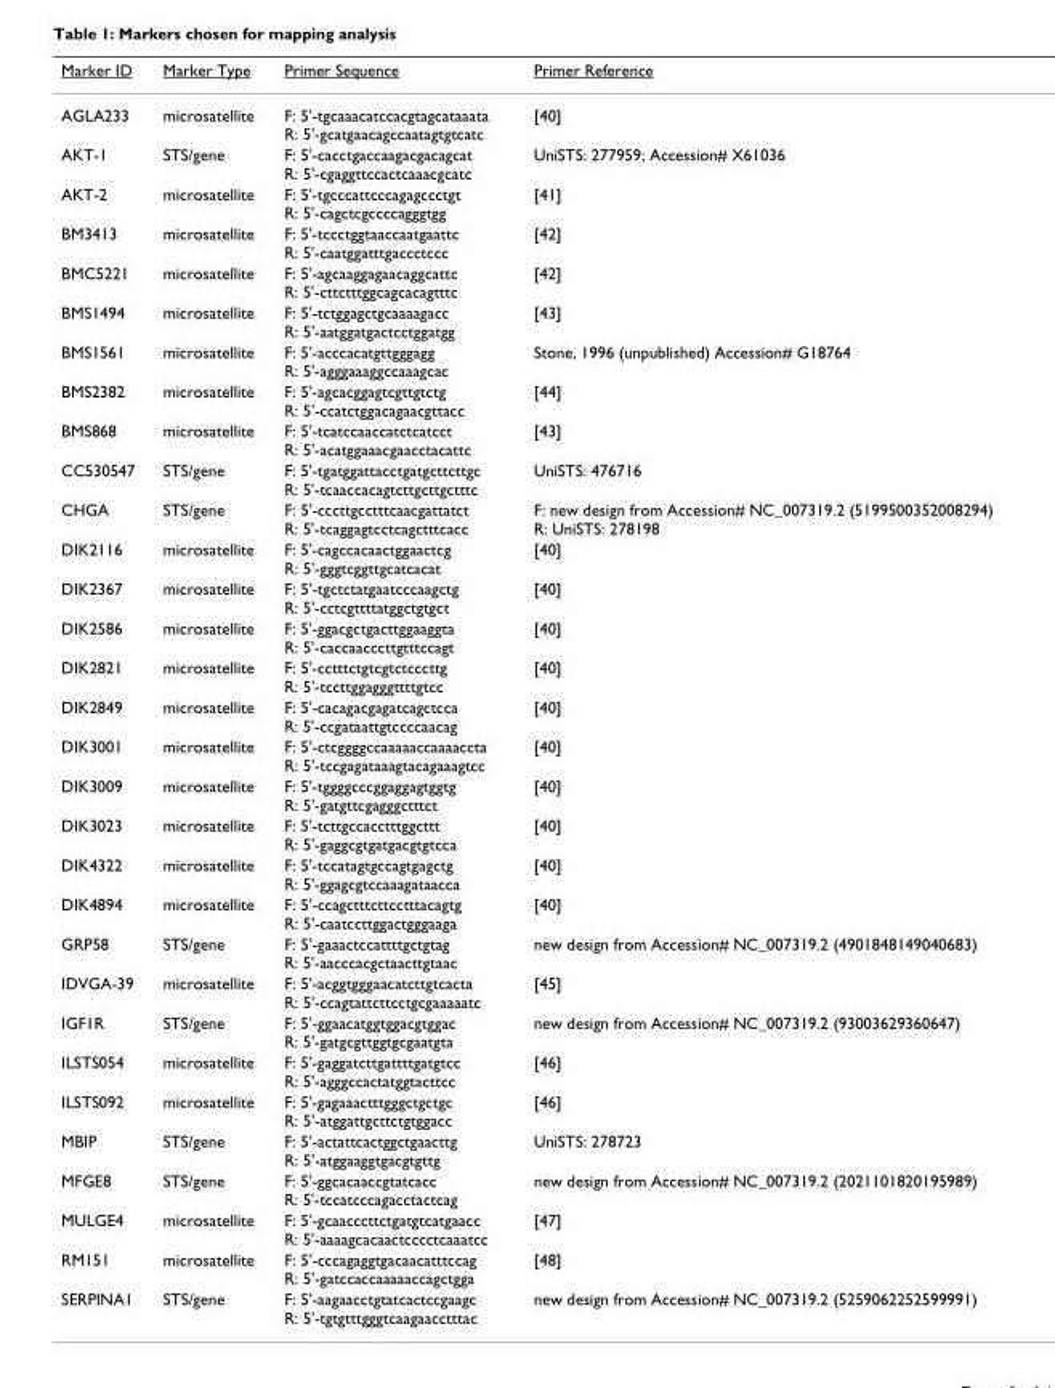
<table><thead><tr><td>Marker ID</td><td>Marker Type</td><td>Primer Sequence</td><td>Primer Reference</td></tr></thead><tbody><tr><td>AGLA233</td><td>microsatellite</td><td>F: 5&#x27;-tgcaaacatccacgtagcataaata R: 5&#x27;-gcatgaacagccaatagtgtcatc</td><td>[40]</td></tr><tr><td>AKT-1</td><td>STS/gene</td><td>F: 5&#x27;-cacctgaccaagacgacagcat R: 5&#x27;-cgaggttccactcaaacgcatc</td><td>UniSTS: 277959; Accession# X61036</td></tr><tr><td>AKT-2</td><td>microsatellite</td><td>F: 5&#x27;-tgcccattcccagagccctgt R: 5&#x27;-cagctcgccccagggtgg</td><td>[41]</td></tr><tr><td>BM3413</td><td>microsatellite</td><td>F: 5&#x27;-tccctggtaaccaatgaattc R: 5&#x27;-caatggatttgaccctccc</td><td>[42]</td></tr><tr><td>BMC5221</td><td>microsatellite</td><td>F: 5&#x27;-agcaaggagaacaggcattc R: 5&#x27;-cttctttggcagcacagtttc</td><td>[42]</td></tr><tr><td>BMS1494</td><td>microsatellite</td><td>F: 5&#x27;-tctggagctgcaaaagacc R: 5&#x27;-aatggatgactcctggatgg</td><td>[43]</td></tr><tr><td>BMS1561</td><td>microsatellite</td><td>F: 5&#x27;-acccacatgttgggagg R: 5&#x27;-agggaaaggccaaagcac</td><td>Stone, 1996 (unpublished) Accession# G18764</td></tr><tr><td>BMS2382</td><td>microsatellite</td><td>F: 5&#x27;-agcacggagtcgttgtctg R: 5&#x27;-ccatctggacagaacgttacc</td><td>[44]</td></tr><tr><td>BMS868</td><td>microsatellite</td><td>F: 5&#x27;-tcatccaaccatctcatcct R: 5&#x27;-acatggaaacgaacctacattc</td><td>[43]</td></tr><tr><td>CC530547</td><td>STS/gene</td><td>F: 5&#x27;-tgatggattacctgatgcttcttgc R: 5&#x27;-tcaaccacagtcttgcttgctttc</td><td>UniSTS: 476716</td></tr><tr><td>CHGA</td><td>STS/gene</td><td>F: 5&#x27;-cccttgcctttcaacgattatct R: 5&#x27;-tcaggagtcctcagctttcacc</td><td>F: new design from Accession# NC_007319.2 (5199500352008294) R: UniSTS: 278198</td></tr><tr><td>DIK2116</td><td>microsatellite</td><td>F: 5&#x27;-cagccacaactggaactcg R: 5&#x27;-gggtcggttgcatcacat</td><td>[40]</td></tr><tr><td>DIK2367</td><td>microsatellite</td><td>F: 5&#x27;-tgctctatgaatcccaagctg R: 5&#x27;-cctcgttttatggctgtgct</td><td>[40]</td></tr><tr><td>DIK2586</td><td>microsatellite</td><td>F: 5&#x27;-ggacgctgacttggaaggta R: 5&#x27;-caccaacccttgtttccagt</td><td>[40]</td></tr><tr><td>DIK2821</td><td>microsatellite</td><td>F: 5&#x27;-cctttctgtcgtctcccttg R: 5&#x27;-tccttggagggttttgtcc</td><td>[40]</td></tr><tr><td>DIK2849</td><td>microsatellite</td><td>F: 5&#x27;-cacagacgagatcagctcca R: 5&#x27;-ccgataattgtccccaacag</td><td>[40]</td></tr><tr><td>DIK3001</td><td>microsatellite</td><td>F: 5&#x27;-ctcggggccaaaaaccaaaaccta R: 5&#x27;-tccgagataaagtacagaaagtcc</td><td>[40]</td></tr><tr><td>DIK3009</td><td>microsatellite</td><td>F: 5&#x27;-tggggcccggaggagtggtg R: 5&#x27;-gatgttcgagggctttct</td><td>[40]</td></tr><tr><td>DIK3023</td><td>microsatellite</td><td>F: 5&#x27;-tcttgccacctttggcttt R: 5&#x27;-gaggcgtgatgacgtgtcca</td><td>[40]</td></tr><tr><td>DIK4322</td><td>microsatellite</td><td>F: 5&#x27;-tccatagtgccagtgagctg R: 5&#x27;-ggagcgtccaaagataacca</td><td>[40]</td></tr><tr><td>DIK4894</td><td>microsatellite</td><td>F: 5&#x27;-ccagctttcttcctttacagtg R: 5&#x27;-caatccttggactgggaaga</td><td>[40]</td></tr><tr><td>GRP58</td><td>STS/gene</td><td>F: 5&#x27;-gaaactccattttgctgtag R: 5&#x27;-aacccacgctaacttgtaac</td><td>new design from Accession# NC_007319.2 (4901848149040683)</td></tr><tr><td>IDVGA-39</td><td>microsatellite</td><td>F: 5&#x27;-acggtgggaacatcttgtcacta R: 5&#x27;-ccagtattcttcctgcgaaaaatc</td><td>[45]</td></tr><tr><td>IGF1R</td><td>STS/gene</td><td>F: 5&#x27;-ggaacatggtggacgtggac R: 5&#x27;-gatgcgttggtgcgaatgta</td><td>new design from Accession# NC_007319.2 (93003629360647)</td></tr><tr><td>ILSTS054</td><td>microsatellite</td><td>F: 5&#x27;-gaggatcttgattttgatgtcc R: 5&#x27;-agggccactatggtacttcc</td><td>[46]</td></tr><tr><td>ILSTS092</td><td>microsatellite</td><td>F: 5&#x27;-gagaaactttgggctgctgc R: 5&#x27;-atggattgcttctgtggacc</td><td>[46]</td></tr><tr><td>MBIP</td><td>STS/gene</td><td>F: 5&#x27;-actattcactggctgaacttg R: 5&#x27;-atggaaggtgacgtgttg</td><td>UniSTS: 278723</td></tr><tr><td>MFGE8</td><td>STS/gene</td><td>F: 5&#x27;-ggcacaaccgtatcacc R: 5&#x27;-tccatcccagacctactcag</td><td>new design from Accession# NC_007319.2 (2021101820195989)</td></tr><tr><td>MULGE4</td><td>microsatellite</td><td>F: 5&#x27;-gcaacccttctgatgtcatgaacc R: 5&#x27;-aaaagcacaactcccctcaaatcc</td><td>[47]</td></tr><tr><td>RM151</td><td>microsatellite</td><td>F: 5&#x27;-cccagaggtgacaacatttccag R: 5&#x27;-gatccaccaaaaaccagctgga</td><td>[48]</td></tr><tr><td>SERPINA1</td><td>STS/gene</td><td>F: 5&#x27;-aagaacctgtatcactccgaagc R: 5&#x27;-tgtgtttgggtcaagaacctttac</td><td>new design from Accession# NC_007319.2 (5259062252599991)</td></tr></tbody></table>